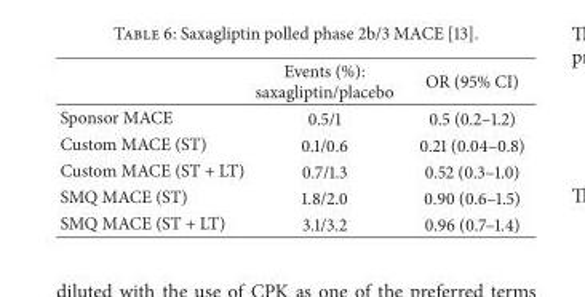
<table><thead><tr><td></td><td>Events (%): saxagliptin/placebo</td><td>OR (95% CI)</td></tr></thead><tbody><tr><td>Sponsor MACE</td><td>0.5/1</td><td>0.5 (0.2–1.2)</td></tr><tr><td>Custom MACE (ST)</td><td>0.1/0.6</td><td>0.21 (0.04–0.8)</td></tr><tr><td>Custom MACE (ST + LT)</td><td>0.7/1.3</td><td>0.52 (0.3–1.0)</td></tr><tr><td>SMQ MACE (ST)</td><td>1.8/2.0</td><td>0.90 (0.6–1.5)</td></tr><tr><td>SMQ MACE (ST + LT)</td><td>3.1/3.2</td><td>0.96 (0.7–1.4)</td></tr></tbody></table>